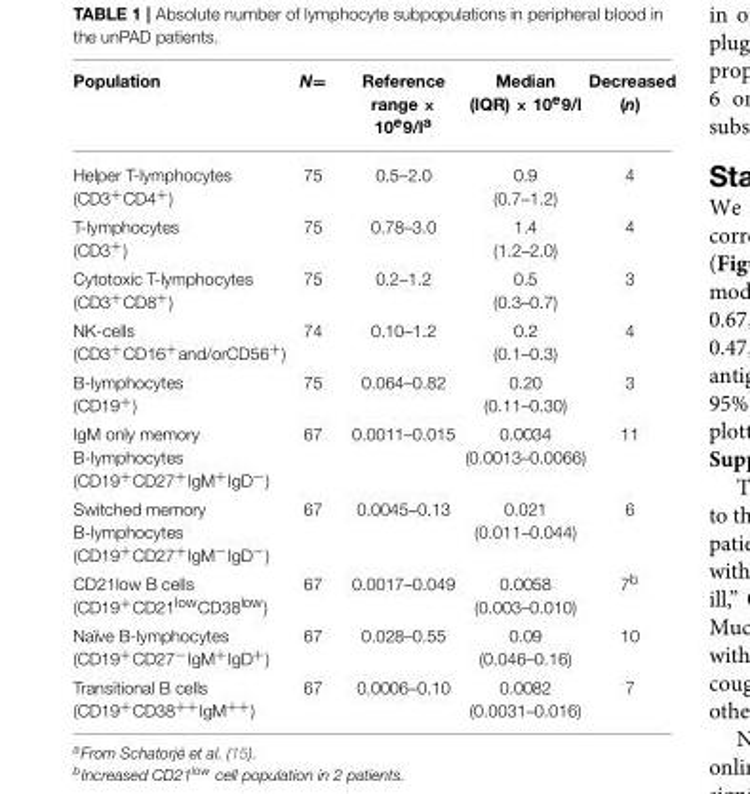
<table><thead><tr><td>Population</td><td>N=</td><td>Reference range × 10<sup>e</sup>9/l<sup>a</sup></td><td>Median (IQR) × 10<sup>e</sup>9/l</td><td>Decreased (n)</td></tr></thead><tbody><tr><td>Helper T-lymphocytes (CD3<sup>+</sup>CD4<sup>+</sup>)</td><td>75</td><td>0.5–2.0</td><td>0.9 (0.7–1.2)</td><td>4</td></tr><tr><td>T-lymphocytes (CD3<sup>+</sup>)</td><td>75</td><td>0.78–3.0</td><td>1.4 (1.2–2.0)</td><td>4</td></tr><tr><td>Cytotoxic T-lymphocytes (CD3<sup>+</sup>CD8<sup>+</sup>)</td><td>75</td><td>0.2–1.2</td><td>0.5 (0.3–0.7)</td><td>3</td></tr><tr><td>NK-cells (CD3<sup>+</sup>CD16<sup>+</sup>and/orCD56<sup>+</sup>)</td><td>74</td><td>0.10–1.2</td><td>0.2 (0.1–0.3)</td><td>4</td></tr><tr><td>B-lymphocytes (CD19<sup>+</sup>)</td><td>75</td><td>0.064–0.82</td><td>0.20 (0.11–0.30)</td><td>3</td></tr><tr><td>IgM only memory B-lymphocytes (CD19<sup>+</sup>CD27<sup>+</sup>IgM<sup>+</sup>IgD<sup>−</sup>)</td><td>67</td><td>0.0011–0.015</td><td>0.0034 (0.0013–0.0066)</td><td>11</td></tr><tr><td>Switched memory B-lymphocytes (CD19<sup>+</sup>CD27<sup>+</sup>IgM<sup>−</sup>IgD<sup>−</sup>)</td><td>67</td><td>0.0045–0.13</td><td>0.021 (0.011–0.044)</td><td>6</td></tr><tr><td>CD21low B cells (CD19<sup>+</sup>CD21<sup>low</sup>CD38<sup>low</sup>)</td><td>67</td><td>0.0017–0.049</td><td>0.0058 (0.003–0.010)</td><td>7<sup>b</sup></td></tr><tr><td>Naïve B-lymphocytes (CD19<sup>+</sup>CD27<sup>−</sup>IgM<sup>+</sup>IgD<sup>+</sup>)</td><td>67</td><td>0.028–0.55</td><td>0.09 (0.046–0.16)</td><td>10</td></tr><tr><td>Transitional B cells (CD19<sup>+</sup>CD38<sup>++</sup>IgM<sup>++</sup>)</td><td>67</td><td>0.0006–0.10</td><td>0.0082 (0.0031–0.016)</td><td>7</td></tr></tbody></table>